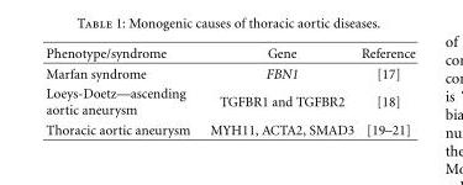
<table><thead><tr><td>Phenotype/syndrome</td><td>Gene</td><td>Reference</td></tr></thead><tbody><tr><td>Marfan syndrome</td><td>FBN1</td><td>[17]</td></tr><tr><td>Loeys-Doetz—ascending aortic aneurysm</td><td>TGFBR1 and TGFBR2</td><td>[18]</td></tr><tr><td>Thoracic aortic aneurysm</td><td>MYH11, ACTA2, SMAD3</td><td>[19–21]</td></tr></tbody></table>